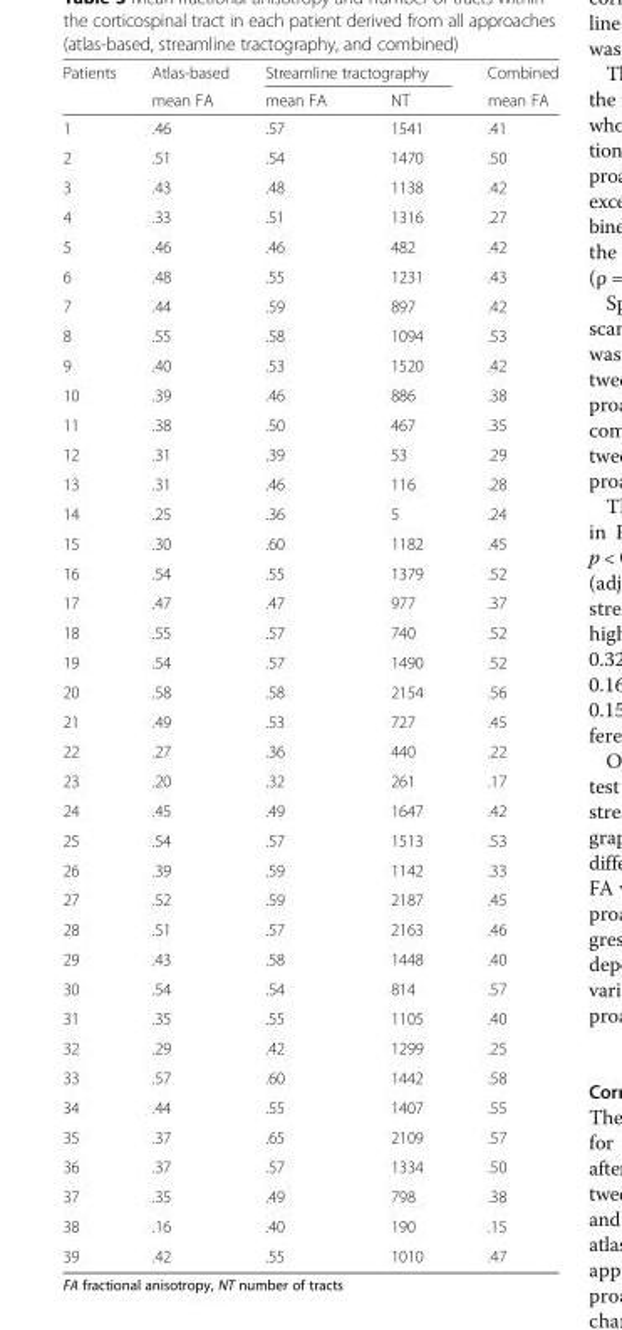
<table><thead><tr><td rowspan="2">Patients</td><td rowspan="2">Atlas-based mean FA</td><td colspan="2">Streamline tractography</td><td rowspan="2">Combined mean FA</td></tr><tr><td>mean FA</td><td>NT</td></tr></thead><tbody><tr><td>1</td><td>.46</td><td>.57</td><td>1541</td><td>.41</td></tr><tr><td>2</td><td>.51</td><td>.54</td><td>1470</td><td>.50</td></tr><tr><td>3</td><td>.43</td><td>.48</td><td>1138</td><td>.42</td></tr><tr><td>4</td><td>.33</td><td>.51</td><td>1316</td><td>.27</td></tr><tr><td>5</td><td>.46</td><td>.46</td><td>482</td><td>.42</td></tr><tr><td>6</td><td>.48</td><td>.55</td><td>1231</td><td>.43</td></tr><tr><td>7</td><td>.44</td><td>.59</td><td>897</td><td>.42</td></tr><tr><td>8</td><td>.55</td><td>.58</td><td>1094</td><td>.53</td></tr><tr><td>9</td><td>.40</td><td>.53</td><td>1520</td><td>.42</td></tr><tr><td>10</td><td>.39</td><td>.46</td><td>886</td><td>.38</td></tr><tr><td>11</td><td>.38</td><td>.50</td><td>467</td><td>.35</td></tr><tr><td>12</td><td>.31</td><td>.39</td><td>53</td><td>.29</td></tr><tr><td>13</td><td>.31</td><td>.46</td><td>116</td><td>.28</td></tr><tr><td>14</td><td>.25</td><td>.36</td><td>5</td><td>.24</td></tr><tr><td>15</td><td>.30</td><td>.60</td><td>1182</td><td>.45</td></tr><tr><td>16</td><td>.54</td><td>.55</td><td>1379</td><td>.52</td></tr><tr><td>17</td><td>.47</td><td>.47</td><td>977</td><td>.37</td></tr><tr><td>18</td><td>.55</td><td>.57</td><td>740</td><td>.52</td></tr><tr><td>19</td><td>.54</td><td>.57</td><td>1490</td><td>.52</td></tr><tr><td>20</td><td>.58</td><td>.58</td><td>2154</td><td>.56</td></tr><tr><td>21</td><td>.49</td><td>.53</td><td>727</td><td>.45</td></tr><tr><td>22</td><td>.27</td><td>.36</td><td>440</td><td>.22</td></tr><tr><td>23</td><td>.20</td><td>.32</td><td>261</td><td>.17</td></tr><tr><td>24</td><td>.45</td><td>.49</td><td>1647</td><td>.42</td></tr><tr><td>25</td><td>.54</td><td>.57</td><td>1513</td><td>.53</td></tr><tr><td>26</td><td>.39</td><td>.59</td><td>1142</td><td>.33</td></tr><tr><td>27</td><td>.52</td><td>.59</td><td>2187</td><td>.45</td></tr><tr><td>28</td><td>.51</td><td>.57</td><td>2163</td><td>.46</td></tr><tr><td>29</td><td>.43</td><td>.58</td><td>1448</td><td>.40</td></tr><tr><td>30</td><td>.54</td><td>.54</td><td>814</td><td>.57</td></tr><tr><td>31</td><td>.35</td><td>.55</td><td>1105</td><td>.40</td></tr><tr><td>32</td><td>.29</td><td>.42</td><td>1299</td><td>.25</td></tr><tr><td>33</td><td>.57</td><td>.60</td><td>1442</td><td>.58</td></tr><tr><td>34</td><td>.44</td><td>.55</td><td>1407</td><td>.55</td></tr><tr><td>35</td><td>.37</td><td>.65</td><td>2109</td><td>.57</td></tr><tr><td>36</td><td>.37</td><td>.57</td><td>1334</td><td>.50</td></tr><tr><td>37</td><td>.35</td><td>.49</td><td>798</td><td>.38</td></tr><tr><td>38</td><td>.16</td><td>.40</td><td>190</td><td>.15</td></tr><tr><td>39</td><td>.42</td><td>.55</td><td>1010</td><td>.47</td></tr></tbody></table>